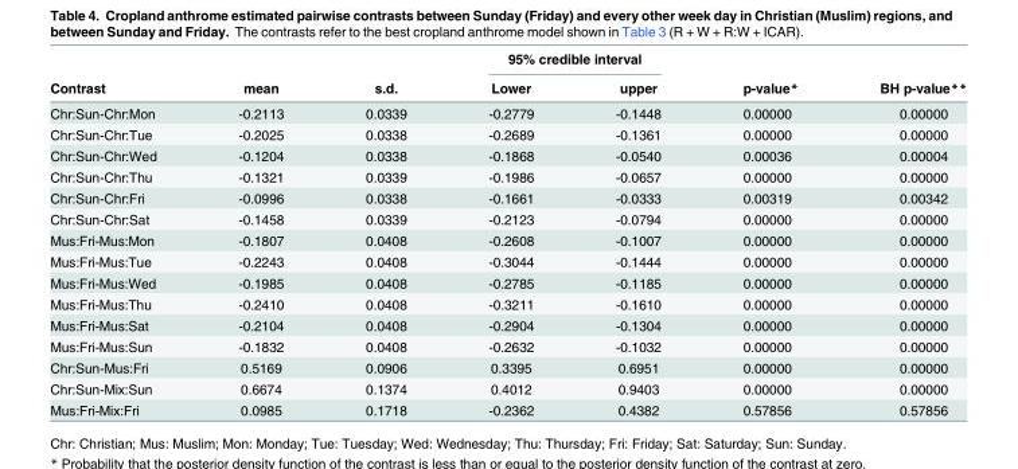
<table><thead><tr><td rowspan="2">Contrast</td><td rowspan="2">mean</td><td rowspan="2">s.d.</td><td colspan="2">95% credible interval</td><td rowspan="2">p-value*</td><td rowspan="2">BH p-value**</td></tr><tr><td>Lower</td><td>upper</td></tr></thead><tbody><tr><td>Chr:Sun-Chr:Mon</td><td>-0.2113</td><td>0.0339</td><td>-0.2779</td><td>-0.1448</td><td>0.00000</td><td>0.00000</td></tr><tr><td>Chr:Sun-Chr:Tue</td><td>-0.2025</td><td>0.0338</td><td>-0.2689</td><td>-0.1361</td><td>0.00000</td><td>0.00000</td></tr><tr><td>Chr:Sun-Chr:Wed</td><td>-0.1204</td><td>0.0338</td><td>-0.1868</td><td>-0.0540</td><td>0.00036</td><td>0.00004</td></tr><tr><td>Chr:Sun-Chr:Thu</td><td>-0.1321</td><td>0.0339</td><td>-0.1986</td><td>-0.0657</td><td>0.00000</td><td>0.00000</td></tr><tr><td>Chr:Sun-Chr:Fri</td><td>-0.0996</td><td>0.0338</td><td>-0.1661</td><td>-0.0333</td><td>0.00319</td><td>0.00342</td></tr><tr><td>Chr:Sun-Chr:Sat</td><td>-0.1458</td><td>0.0339</td><td>-0.2123</td><td>-0.0794</td><td>0.00000</td><td>0.00000</td></tr><tr><td>Mus:Fri-Mus:Mon</td><td>-0.1807</td><td>0.0408</td><td>-0.2608</td><td>-0.1007</td><td>0.00000</td><td>0.00000</td></tr><tr><td>Mus:Fri-Mus:Tue</td><td>-0.2243</td><td>0.0408</td><td>-0.3044</td><td>-0.1444</td><td>0.00000</td><td>0.00000</td></tr><tr><td>Mus:Fri-Mus:Wed</td><td>-0.1985</td><td>0.0408</td><td>-0.2785</td><td>-0.1185</td><td>0.00000</td><td>0.00000</td></tr><tr><td>Mus:Fri-Mus:Thu</td><td>-0.2410</td><td>0.0408</td><td>-0.3211</td><td>-0.1610</td><td>0.00000</td><td>0.00000</td></tr><tr><td>Mus:Fri-Mus:Sat</td><td>-0.2104</td><td>0.0408</td><td>-0.2904</td><td>-0.1304</td><td>0.00000</td><td>0.00000</td></tr><tr><td>Mus:Fri-Mus:Sun</td><td>-0.1832</td><td>0.0408</td><td>-0.2632</td><td>-0.1032</td><td>0.00000</td><td>0.00000</td></tr><tr><td>Chr:Sun-Mus:Fri</td><td>0.5169</td><td>0.0906</td><td>0.3395</td><td>0.6951</td><td>0.00000</td><td>0.00000</td></tr><tr><td>Chr:Sun-Mix:Sun</td><td>0.6674</td><td>0.1374</td><td>0.4012</td><td>0.9403</td><td>0.00000</td><td>0.00000</td></tr><tr><td>Mus:Fri-Mix:Fri</td><td>0.0985</td><td>0.1718</td><td>-0.2362</td><td>0.4382</td><td>0.57856</td><td>0.57856</td></tr></tbody></table>